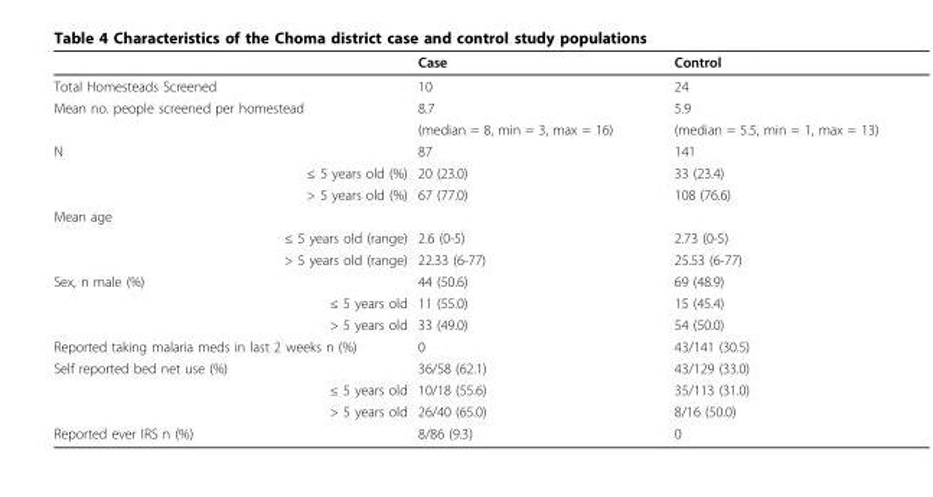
<table><thead><tr><td></td><td>Case</td><td>Control</td></tr></thead><tbody><tr><td>Total Homesteads Screened</td><td>10</td><td>24</td></tr><tr><td rowspan="2">Mean no. people screened per homestead</td><td>8.7</td><td>5.9</td></tr><tr><td>(median = 8, min = 3, max = 16)</td><td>(median = 5.5, min = 1, max = 13)</td></tr><tr><td>N</td><td>87</td><td>141</td></tr><tr><td>≤ 5 years old (%)</td><td>20 (23.0)</td><td>33 (23.4)</td></tr><tr><td>&gt; 5 years old (%)</td><td>67 (77.0)</td><td>108 (76.6)</td></tr><tr><td colspan="3">Mean age</td></tr><tr><td>≤ 5 years old (range)</td><td>2.6 (0-5)</td><td>2.73 (0-5)</td></tr><tr><td>&gt; 5 years old (range)</td><td>22.33 (6-77)</td><td>25.53 (6-77)</td></tr><tr><td>Sex, n male (%)</td><td>44 (50.6)</td><td>69 (48.9)</td></tr><tr><td>≤ 5 years old</td><td>11 (55.0)</td><td>15 (45.4)</td></tr><tr><td>&gt; 5 years old</td><td>33 (49.0)</td><td>54 (50.0)</td></tr><tr><td>Reported taking malaria meds in last 2 weeks n (%)</td><td>0</td><td>43/141 (30.5)</td></tr><tr><td>Self reported bed net use (%)</td><td>36/58 (62.1)</td><td>43/129 (33.0)</td></tr><tr><td>≤ 5 years old</td><td>10/18 (55.6)</td><td>35/113 (31.0)</td></tr><tr><td>&gt; 5 years old</td><td>26/40 (65.0)</td><td>8/16 (50.0)</td></tr><tr><td>Reported ever IRS n (%)</td><td>8/86 (9.3)</td><td>0</td></tr></tbody></table>